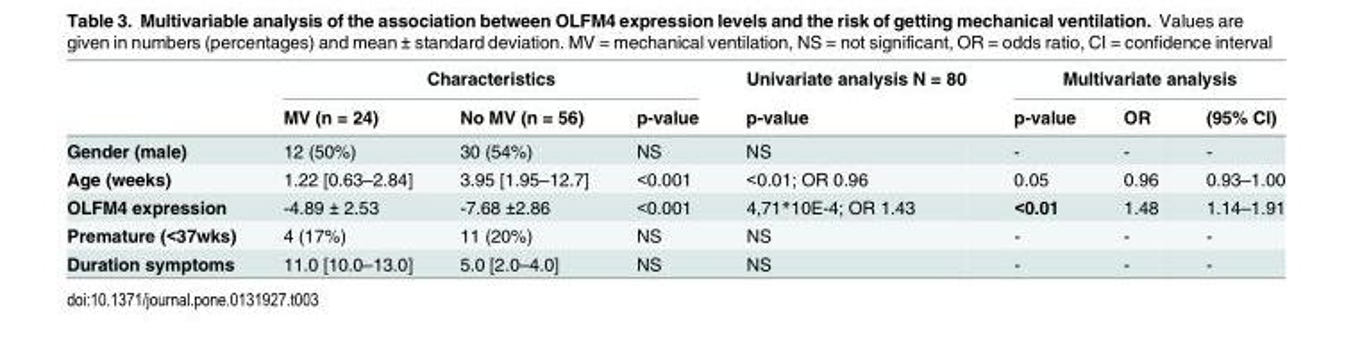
<table><thead><tr><td rowspan="2"></td><td colspan="3">Characteristics</td><td rowspan="2">Univariate analysis N = 80 p-value</td><td colspan="3">Multivariate analysis</td></tr><tr><td>MV (n = 24)</td><td>No MV (n = 56)</td><td>p-value</td><td>p-value</td><td>OR</td><td>(95% CI)</td></tr></thead><tbody><tr><td>Gender (male)</td><td>12 (50%)</td><td>30 (54%)</td><td>NS</td><td>NS</td><td>-</td><td>-</td><td>-</td></tr><tr><td>Age (weeks)</td><td>1.22 [0.63–2.84]</td><td>3.95 [1.95–12.7]</td><td>&lt;0.001</td><td>&lt;0.01; OR 0.96</td><td>0.05</td><td>0.96</td><td>0.93–1.00</td></tr><tr><td>OLFM4 expression</td><td>-4.89 ± 2.53</td><td>-7.68 ±2.86</td><td>&lt;0.001</td><td>4,71*10E-4; OR 1.43</td><td>&lt;0.01</td><td>1.48</td><td>1.14–1.91</td></tr><tr><td>Premature (&lt;37wks)</td><td>4 (17%)</td><td>11 (20%)</td><td>NS</td><td>NS</td><td>-</td><td>-</td><td>-</td></tr><tr><td>Duration symptoms</td><td>11.0 [10.0–13.0]</td><td>5.0 [2.0–4.0]</td><td>NS</td><td>NS</td><td>-</td><td>-</td><td>-</td></tr></tbody></table>